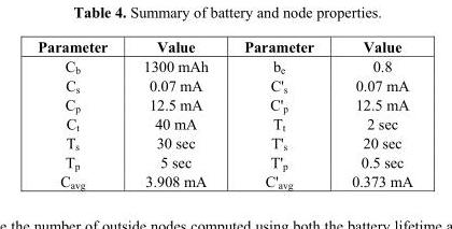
<table><thead><tr><td>Parameter</td><td>Value</td><td>Parameter</td><td>Value</td></tr></thead><tbody><tr><td>C<sub>b</sub></td><td>1300 mAh</td><td>b<sub>e</sub></td><td>0.8</td></tr><tr><td>C<sub>s</sub></td><td>0.07 mA</td><td>C&#x27;<sub>s</sub></td><td>0.07 mA</td></tr><tr><td>C<sub>p</sub></td><td>12.5 mA</td><td>C&#x27;<sub>p</sub></td><td>12.5 mA</td></tr><tr><td>C<sub>t</sub></td><td>40 mA</td><td>T<sub>t</sub></td><td>2 sec</td></tr><tr><td>T<sub>s</sub></td><td>30 sec</td><td>T&#x27;<sub>s</sub></td><td>20 sec</td></tr><tr><td>T<sub>p</sub></td><td>5 sec</td><td>T&#x27;<sub>p</sub></td><td>0.5 sec</td></tr><tr><td>C<sub>avg</sub></td><td>3.908 mA</td><td>C&#x27;<sub>avg</sub></td><td>0.373 mA</td></tr></tbody></table>